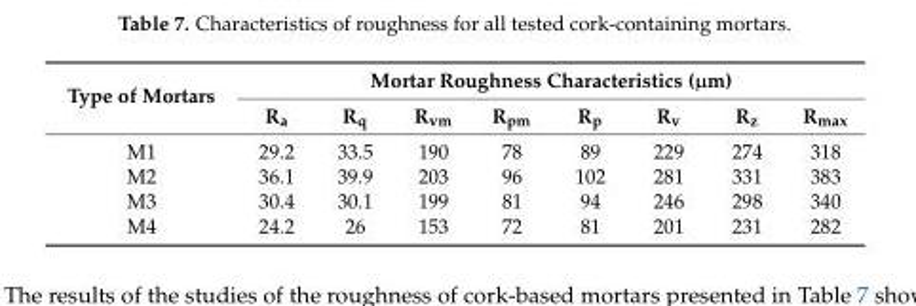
<table><thead><tr><td rowspan="2">Type of Mortars</td><td colspan="8">Mortar Roughness Characteristics (µm)</td></tr><tr><td>R<sub>a</sub></td><td>R<sub>q</sub></td><td>R<sub>vm</sub></td><td>R<sub>pm</sub></td><td>R<sub>p</sub></td><td>R<sub>v</sub></td><td>R<sub>z</sub></td><td>R<sub>max</sub></td></tr></thead><tbody><tr><td>M1</td><td>29.2</td><td>33.5</td><td>190</td><td>78</td><td>89</td><td>229</td><td>274</td><td>318</td></tr><tr><td>M2</td><td>36.1</td><td>39.9</td><td>203</td><td>96</td><td>102</td><td>281</td><td>331</td><td>383</td></tr><tr><td>M3</td><td>30.4</td><td>30.1</td><td>199</td><td>81</td><td>94</td><td>246</td><td>298</td><td>340</td></tr><tr><td>M4</td><td>24.2</td><td>26</td><td>153</td><td>72</td><td>81</td><td>201</td><td>231</td><td>282</td></tr></tbody></table>